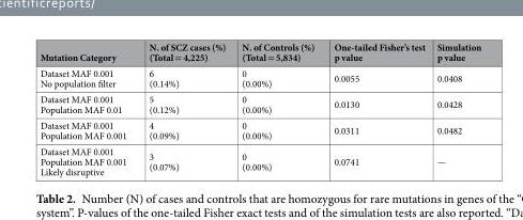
<table><thead><tr><td>Mutation Category</td><td>N. of SCZ cases (%) (Total = 4,225)</td><td>N. of Controls (%) (Total = 5,834)</td><td>One-tailed Fisher’s test p value</td><td>Simulation p value</td></tr></thead><tbody><tr><td>Dataset MAF 0.001 No population filter</td><td>6 (0.14%)</td><td>0 (0.00%)</td><td>0.0055</td><td>0.0408</td></tr><tr><td>Dataset MAF 0.001 Population MAF 0.01</td><td>5 (0.12%)</td><td>0 (0.00%)</td><td>0.0130</td><td>0.0428</td></tr><tr><td>Dataset MAF 0.001 Population MAF 0.001</td><td>4 (0.09%)</td><td>0 (0.00%)</td><td>0.0311</td><td>0.0482</td></tr><tr><td>Dataset MAF 0.001 Population MAF 0.001 Likely disruptive</td><td>3 (0.07%)</td><td>0 (0.00%)</td><td>0.0741</td><td>—</td></tr></tbody></table>